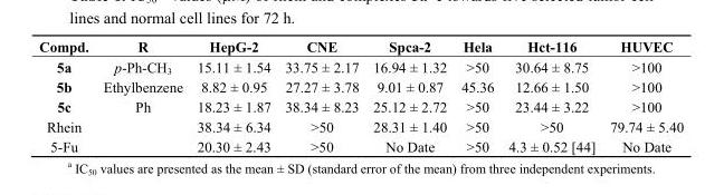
<table><thead><tr><td>Compd.</td><td>R</td><td>HepG-2</td><td>CNE</td><td>Spca-2</td><td>Hela</td><td>Hct-116</td><td>HUVEC</td></tr></thead><tbody><tr><td>5a</td><td>p-Ph-CH<sub>3</sub></td><td>15.11 ± 1.54</td><td>33.75 ± 2.17</td><td>16.94 ± 1.32</td><td>&gt;50</td><td>30.64 ± 8.75</td><td>&gt;100</td></tr><tr><td>5b</td><td>Ethylbenzene</td><td>8.82 ± 0.95</td><td>27.27 ± 3.78</td><td>9.01 ± 0.87</td><td>45.36</td><td>12.66 ± 1.50</td><td>&gt;100</td></tr><tr><td>5c</td><td>Ph</td><td>18.23 ± 1.87</td><td>38.34 ± 8.23</td><td>25.12 ± 2.72</td><td>&gt;50</td><td>23.44 ± 3.22</td><td>&gt;100</td></tr><tr><td>Rhein</td><td></td><td>38.34 ± 6.34</td><td>&gt;50</td><td>28.31 ± 1.40</td><td>&gt;50</td><td>&gt;50</td><td>79.74 ± 5.40</td></tr><tr><td>5-Fu</td><td></td><td>20.30 ± 2.43</td><td>&gt;50</td><td>No Date</td><td>&gt;50</td><td>4.3 ± 0.52 [44]</td><td>No Date</td></tr></tbody></table>